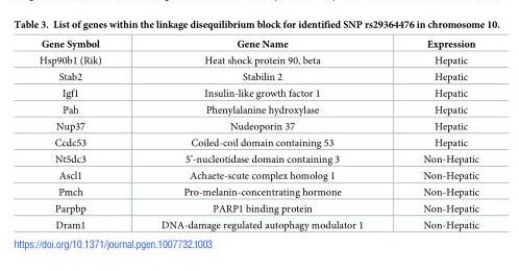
<table><thead><tr><td>Gene Symbol</td><td>Gene Name</td><td>Expression</td></tr></thead><tbody><tr><td>Hsp90b1 (Rik)</td><td>Heat shock protein 90, beta</td><td>Hepatic</td></tr><tr><td>Stab2</td><td>Stabilin 2</td><td>Hepatic</td></tr><tr><td>Igf1</td><td>Insulin-like growth factor 1</td><td>Hepatic</td></tr><tr><td>Pah</td><td>Phenylalanine hydroxylase</td><td>Hepatic</td></tr><tr><td>Nup37</td><td>Nudeoporin 37</td><td>Hepatic</td></tr><tr><td>Ccdc53</td><td>Coiled-coil domain containing 53</td><td>Hepatic</td></tr><tr><td>Nt5dc3</td><td>5’-nucleotidase domain containing 3</td><td>Non-Hepatic</td></tr><tr><td>Ascl1</td><td>Achaete-scute complex homolog 1</td><td>Non-Hepatic</td></tr><tr><td>Pmch</td><td>Pro-melanin-concentrating hormone</td><td>Non-Hepatic</td></tr><tr><td>Parpbp</td><td>PARP1 binding protein</td><td>Non-Hepatic</td></tr><tr><td>Dram1</td><td>DNA-damage regulated autophagy modulator 1</td><td>Non-Hepatic</td></tr></tbody></table>